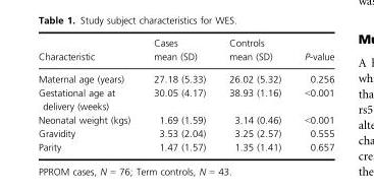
<table><thead><tr><td>Characteristic</td><td>Cases mean (SD)</td><td>Controls mean (SD)</td><td>P-value</td></tr></thead><tbody><tr><td>Maternal age (years)</td><td>27.18 (5.33)</td><td>26.02 (5.32)</td><td>0.256</td></tr><tr><td>Gestational age at delivery (weeks)</td><td>30.05 (4.17)</td><td>38.93 (1.16)</td><td>&lt;0.001</td></tr><tr><td>Neonatal weight (kgs)</td><td>1.69 (1.59)</td><td>3.14 (0.46)</td><td>&lt;0.001</td></tr><tr><td>Gravidity</td><td>3.53 (2.04)</td><td>3.25 (2.57)</td><td>0.555</td></tr><tr><td>Parity</td><td>1.47 (1.57)</td><td>1.35 (1.41)</td><td>0.657</td></tr></tbody></table>